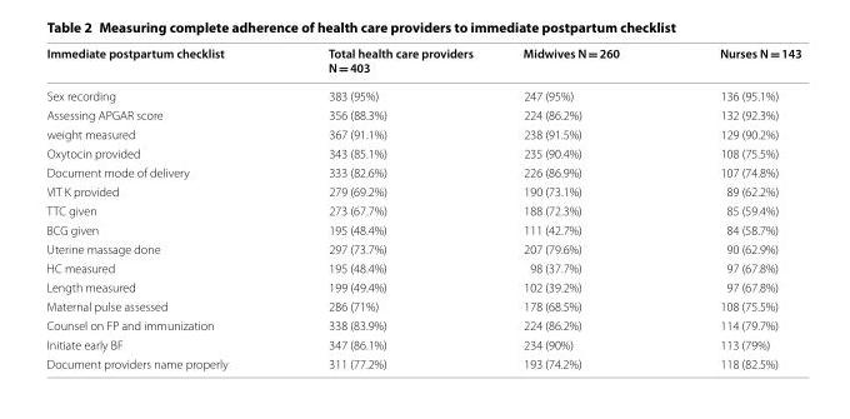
<table><thead><tr><td>Immediate postpartum checklist</td><td>Total health care providers N = 403</td><td>Midwives N = 260</td><td>Nurses N = 143</td></tr></thead><tbody><tr><td>Sex recording</td><td>383 (95%)</td><td>247 (95%)</td><td>136 (95.1%)</td></tr><tr><td>Assessing APGAR score</td><td>356 (88.3%)</td><td>224 (86.2%)</td><td>132 (92.3%)</td></tr><tr><td>weight measured</td><td>367 (91.1%)</td><td>238 (91.5%)</td><td>129 (90.2%)</td></tr><tr><td>Oxytocin provided</td><td>343 (85.1%)</td><td>235 (90.4%)</td><td>108 (75.5%)</td></tr><tr><td>Document mode of delivery</td><td>333 (82.6%)</td><td>226 (86.9%)</td><td>107 (74.8%)</td></tr><tr><td>VIT K provided</td><td>279 (69.2%)</td><td>190 (73.1%)</td><td>89 (62.2%)</td></tr><tr><td>TTC given</td><td>273 (67.7%)</td><td>188 (72.3%)</td><td>85 (59.4%)</td></tr><tr><td>BCG given</td><td>195 (48.4%)</td><td>111 (42.7%)</td><td>84 (58.7%)</td></tr><tr><td>Uterine massage done</td><td>297 (73.7%)</td><td>207 (79.6%)</td><td>90 (62.9%)</td></tr><tr><td>HC measured</td><td>195 (48.4%)</td><td>98 (37.7%)</td><td>97 (67.8%)</td></tr><tr><td>Length measured</td><td>199 (49.4%)</td><td>102 (39.2%)</td><td>97 (67.8%)</td></tr><tr><td>Maternal pulse assessed</td><td>286 (71%)</td><td>178 (68.5%)</td><td>108 (75.5%)</td></tr><tr><td>Counsel on FP and immunization</td><td>338 (83.9%)</td><td>224 (86.2%)</td><td>114 (79.7%)</td></tr><tr><td>Initiate early BF</td><td>347 (86.1%)</td><td>234 (90%)</td><td>113 (79%)</td></tr><tr><td>Document providers name properly</td><td>311 (77.2%)</td><td>193 (74.2%)</td><td>118 (82.5%)</td></tr></tbody></table>